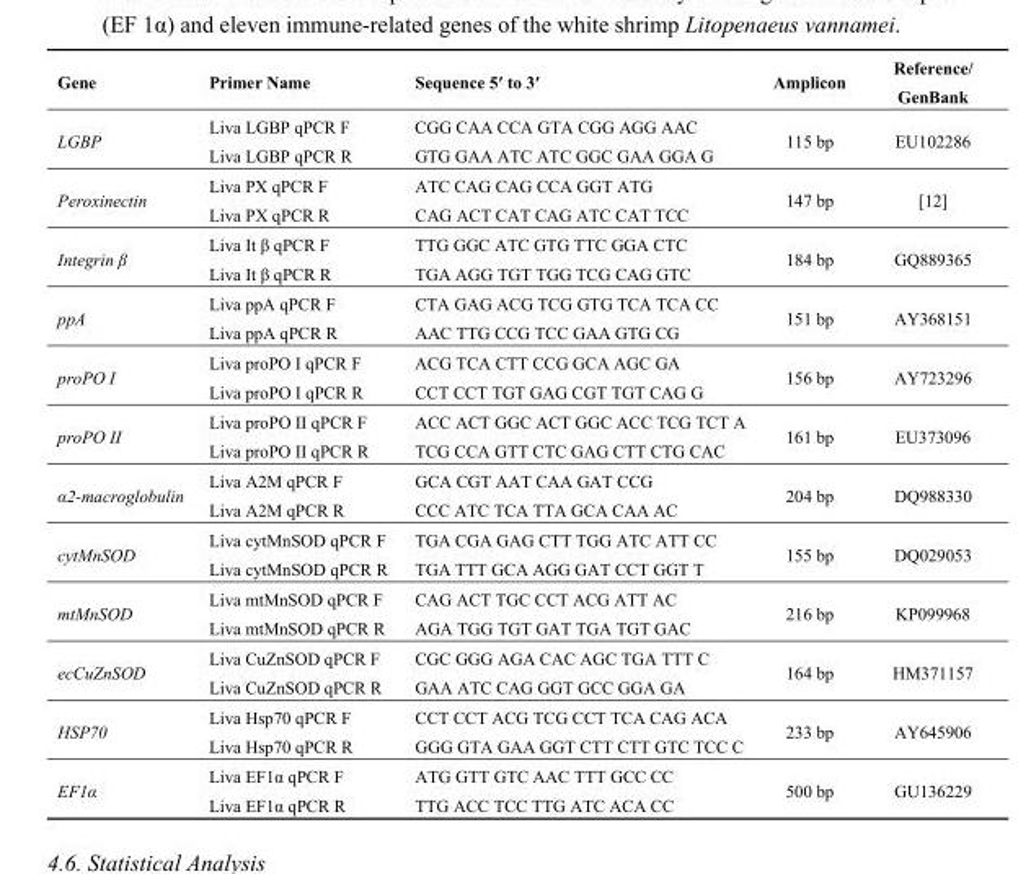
<table><thead><tr><td>Gene</td><td>Primer Name</td><td>Sequence 5′ to 3′</td><td>Amplicon</td><td>Reference/ GenBank</td></tr></thead><tbody><tr><td rowspan="2">LGBP</td><td>Liva LGBP qPCR F</td><td>CGG CAA CCA GTA CGG AGG AAC</td><td rowspan="2">115 bp</td><td rowspan="2">EU102286</td></tr><tr><td>Liva LGBP qPCR R</td><td>GTG GAA ATC ATC GGC GAA GGA G</td></tr><tr><td rowspan="2">Peroxinectin</td><td>Liva PX qPCR F</td><td>ATC CAG CAG CCA GGT ATG</td><td rowspan="2">147 bp</td><td rowspan="2">[12]</td></tr><tr><td>Liva PX qPCR R</td><td>CAG ACT CAT CAG ATC CAT TCC</td></tr><tr><td rowspan="2">Integrin β</td><td>Liva It β qPCR F</td><td>TTG GGC ATC GTG TTC GGA CTC</td><td rowspan="2">184 bp</td><td rowspan="2">GQ889365</td></tr><tr><td>Liva It β qPCR R</td><td>TGA AGG TGT TGG TCG CAG GTC</td></tr><tr><td rowspan="2">ppA</td><td>Liva ppA qPCR F</td><td>CTA GAG ACG TCG GTG TCA TCA CC</td><td rowspan="2">151 bp</td><td rowspan="2">AY368151</td></tr><tr><td>Liva ppA qPCR R</td><td>AAC TTG CCG TCC GAA GTG CG</td></tr><tr><td rowspan="2">proPO I</td><td>Liva proPO I qPCR F</td><td>ACG TCA CTT CCG GCA AGC GA</td><td rowspan="2">156 bp</td><td rowspan="2">AY723296</td></tr><tr><td>Liva proPO I qPCR R</td><td>CCT CCT TGT GAG CGT TGT CAG G</td></tr><tr><td rowspan="2">proPO II</td><td>Liva proPO II qPCR F</td><td>ACC ACT GGC ACT GGC ACC TCG TCT A</td><td rowspan="2">161 bp</td><td rowspan="2">EU373096</td></tr><tr><td>Liva proPO II qPCR R</td><td>TCG CCA GTT CTC GAG CTT CTG CAC</td></tr><tr><td rowspan="2">α2-macroglobulin</td><td>Liva A2M qPCR F</td><td>GCA CGT AAT CAA GAT CCG</td><td rowspan="2">204 bp</td><td rowspan="2">DQ988330</td></tr><tr><td>Liva A2M qPCR R</td><td>CCC ATC TCA TTA GCA CAA AC</td></tr><tr><td rowspan="2">cytMnSOD</td><td>Liva cytMnSOD qPCR F</td><td>TGA CGA GAG CTT TGG ATC ATT CC</td><td rowspan="2">155 bp</td><td rowspan="2">DQ029053</td></tr><tr><td>Liva cytMnSOD qPCR R</td><td>TGA TTT GCA AGG GAT CCT GGT T</td></tr><tr><td rowspan="2">mtMnSOD</td><td>Liva mtMnSOD qPCR F</td><td>CAG ACT TGC CCT ACG ATT AC</td><td rowspan="2">216 bp</td><td rowspan="2">KP099968</td></tr><tr><td>Liva mtMnSOD qPCR R</td><td>AGA TGG TGT GAT TGA TGT GAC</td></tr><tr><td rowspan="2">ecCuZnSOD</td><td>Liva CuZnSOD qPCR F</td><td>CGC GGG AGA CAC AGC TGA TTT C</td><td rowspan="2">164 bp</td><td rowspan="2">HM371157</td></tr><tr><td>Liva CuZnSOD qPCR R</td><td>GAA ATC CAG GGT GCC GGA GA</td></tr><tr><td rowspan="2">HSP70</td><td>Liva Hsp70 qPCR F</td><td>CCT CCT ACG TCG CCT TCA CAG ACA</td><td rowspan="2">233 bp</td><td rowspan="2">AY645906</td></tr><tr><td>Liva Hsp70 qPCR R</td><td>GGG GTA GAA GGT CTT CTT GTC TCC C</td></tr><tr><td rowspan="2">EF1α</td><td>Liva EF1α qPCR F</td><td>ATG GTT GTC AAC TTT GCC CC</td><td rowspan="2">500 bp</td><td rowspan="2">GU136229</td></tr><tr><td>Liva EF1α qPCR R</td><td>TTG ACC TCC TTG ATC ACA CC</td></tr></tbody></table>